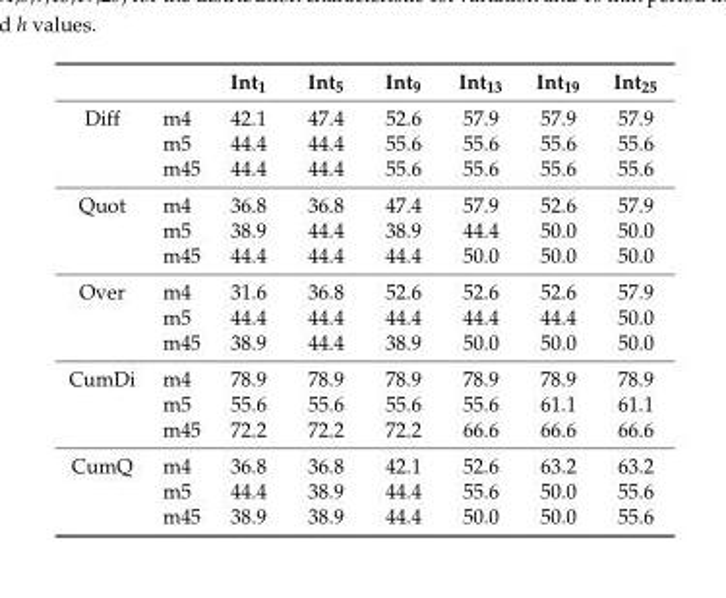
<table><thead><tr><td></td><td></td><td>Int<sub>1</sub></td><td>Int<sub>5</sub></td><td>Int<sub>9</sub></td><td>Int<sub>13</sub></td><td>Int<sub>19</sub></td><td>Int<sub>25</sub></td></tr></thead><tbody><tr><td rowspan="3">Diff</td><td>m4</td><td>42.1</td><td>47.4</td><td>52.6</td><td>57.9</td><td>57.9</td><td>57.9</td></tr><tr><td>m5</td><td>44.4</td><td>44.4</td><td>55.6</td><td>55.6</td><td>55.6</td><td>55.6</td></tr><tr><td>m45</td><td>44.4</td><td>44.4</td><td>55.6</td><td>55.6</td><td>55.6</td><td>55.6</td></tr><tr><td rowspan="3">Quot</td><td>m4</td><td>36.8</td><td>36.8</td><td>47.4</td><td>57.9</td><td>52.6</td><td>57.9</td></tr><tr><td>m5</td><td>38.9</td><td>44.4</td><td>38.9</td><td>44.4</td><td>50.0</td><td>50.0</td></tr><tr><td>m45</td><td>44.4</td><td>44.4</td><td>44.4</td><td>50.0</td><td>50.0</td><td>50.0</td></tr><tr><td rowspan="3">Over</td><td>m4</td><td>31.6</td><td>36.8</td><td>52.6</td><td>52.6</td><td>52.6</td><td>57.9</td></tr><tr><td>m5</td><td>44.4</td><td>44.4</td><td>44.4</td><td>44.4</td><td>44.4</td><td>50.0</td></tr><tr><td>m45</td><td>38.9</td><td>44.4</td><td>38.9</td><td>50.0</td><td>50.0</td><td>50.0</td></tr><tr><td rowspan="3">CumDi</td><td>m4</td><td>78.9</td><td>78.9</td><td>78.9</td><td>78.9</td><td>78.9</td><td>78.9</td></tr><tr><td>m5</td><td>55.6</td><td>55.6</td><td>55.6</td><td>55.6</td><td>61.1</td><td>61.1</td></tr><tr><td>m45</td><td>72.2</td><td>72.2</td><td>72.2</td><td>66.6</td><td>66.6</td><td>66.6</td></tr><tr><td rowspan="3">CumQ</td><td>m4</td><td>36.8</td><td>36.8</td><td>42.1</td><td>52.6</td><td>63.2</td><td>63.2</td></tr><tr><td>m5</td><td>44.4</td><td>38.9</td><td>44.4</td><td>55.6</td><td>50.0</td><td>55.6</td></tr><tr><td>m45</td><td>38.9</td><td>38.9</td><td>44.4</td><td>50.0</td><td>50.0</td><td>55.6</td></tr></tbody></table>